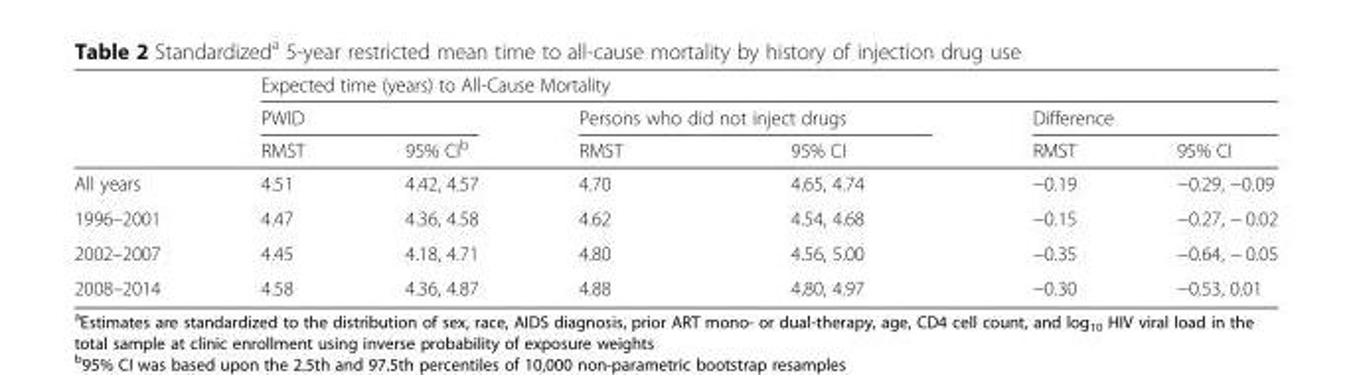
<table><thead><tr><td rowspan="3"></td><td colspan="6">Expected time (years) to All-Cause Mortality</td></tr><tr><td colspan="2">PWID</td><td colspan="2">Persons who did not inject drugs</td><td colspan="2">Difference</td></tr><tr><td>RMST</td><td>95% CI<sup>b</sup></td><td>RMST</td><td>95% CI</td><td>RMST</td><td>95% CI</td></tr></thead><tbody><tr><td>All years</td><td>4.51</td><td>4.42, 4.57</td><td>4.70</td><td>4.65, 4.74</td><td>−0.19</td><td>−0.29, −0.09</td></tr><tr><td>1996–2001</td><td>4.47</td><td>4.36, 4.58</td><td>4.62</td><td>4.54, 4.68</td><td>−0.15</td><td>−0.27, − 0.02</td></tr><tr><td>2002–2007</td><td>4.45</td><td>4.18, 4.71</td><td>4.80</td><td>4.56, 5.00</td><td>−0.35</td><td>−0.64, − 0.05</td></tr><tr><td>2008–2014</td><td>4.58</td><td>4.36, 4.87</td><td>4.88</td><td>4.80, 4.97</td><td>−0.30</td><td>−0.53, 0.01</td></tr></tbody></table>